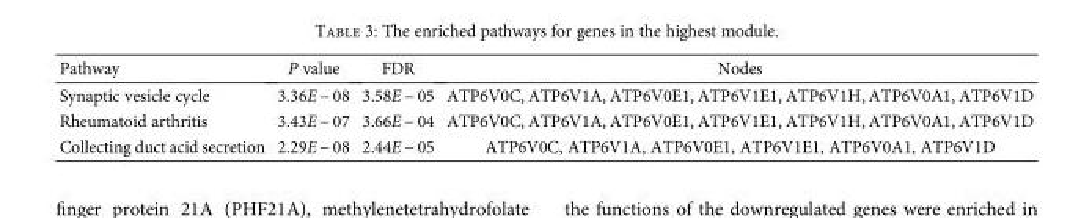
<table><thead><tr><td>Pathway</td><td>P value</td><td>FDR</td><td>Nodes</td></tr></thead><tbody><tr><td>Synaptic vesicle cycle</td><td>3.36E − 08</td><td>3.58E − 05</td><td>ATP6V0C, ATP6V1A, ATP6V0E1, ATP6V1E1, ATP6V1H, ATP6V0A1, ATP6V1D</td></tr><tr><td>Rheumatoid arthritis</td><td>3.43E − 07</td><td>3.66E − 04</td><td>ATP6V0C, ATP6V1A, ATP6V0E1, ATP6V1E1, ATP6V1H, ATP6V0A1, ATP6V1D</td></tr><tr><td>Collecting duct acid secretion</td><td>2.29E − 08</td><td>2.44E − 05</td><td>ATP6V0C, ATP6V1A, ATP6V0E1, ATP6V1E1, ATP6V0A1, ATP6V1D</td></tr></tbody></table>